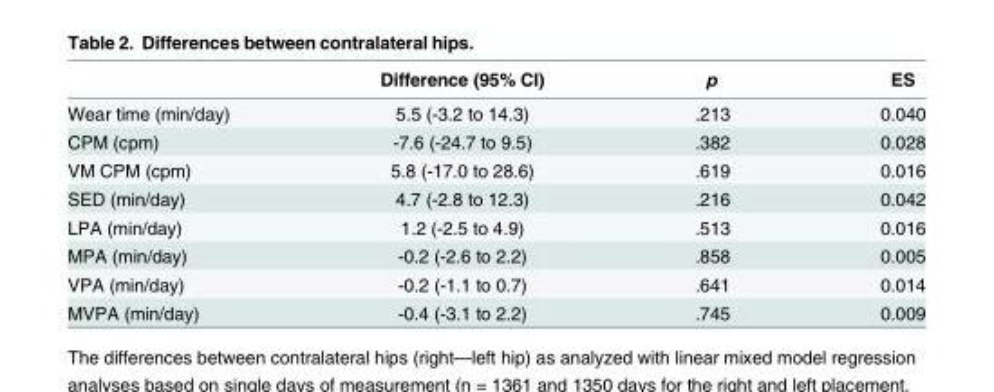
<table><thead><tr><td></td><td>Difference (95% CI)</td><td>p</td><td>ES</td></tr></thead><tbody><tr><td>Wear time (min/day)</td><td>5.5 (-3.2 to 14.3)</td><td>.213</td><td>0.040</td></tr><tr><td>CPM (cpm)</td><td>-7.6 (-24.7 to 9.5)</td><td>.382</td><td>0.028</td></tr><tr><td>VM CPM (cpm)</td><td>5.8 (-17.0 to 28.6)</td><td>.619</td><td>0.016</td></tr><tr><td>SED (min/day)</td><td>4.7 (-2.8 to 12.3)</td><td>.216</td><td>0.042</td></tr><tr><td>LPA (min/day)</td><td>1.2 (-2.5 to 4.9)</td><td>.513</td><td>0.016</td></tr><tr><td>MPA (min/day)</td><td>-0.2 (-2.6 to 2.2)</td><td>.858</td><td>0.005</td></tr><tr><td>VPA (min/day)</td><td>-0.2 (-1.1 to 0.7)</td><td>.641</td><td>0.014</td></tr><tr><td>MVPA (min/day)</td><td>-0.4 (-3.1 to 2.2)</td><td>.745</td><td>0.009</td></tr></tbody></table>